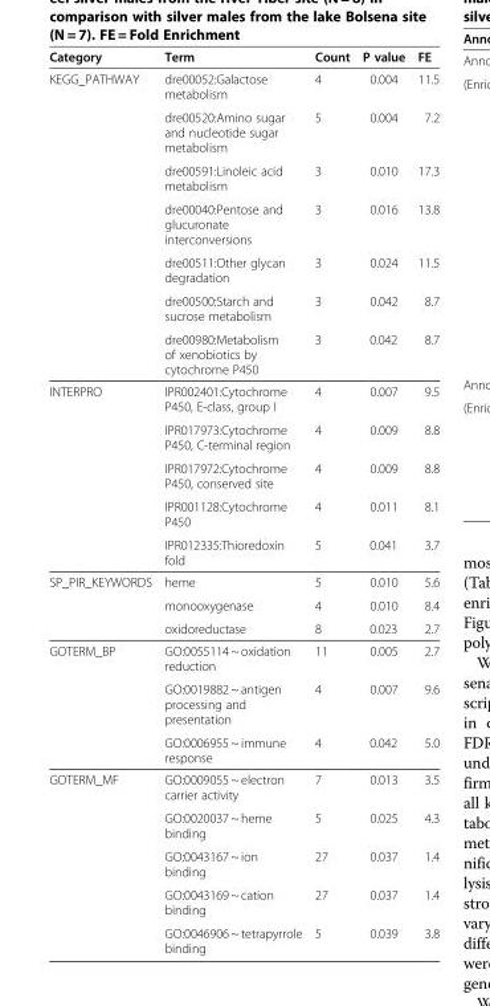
<table><thead><tr><td>Category</td><td>Term</td><td>Count</td><td>P value</td><td>FE</td></tr></thead><tbody><tr><td rowspan="7">KEGG_PATHWAY</td><td>dre00052:Galactose metabolism</td><td>4</td><td>0.004</td><td>11.5</td></tr><tr><td>dre00520:Amino sugar and nucleotide sugar metabolism</td><td>5</td><td>0.004</td><td>7.2</td></tr><tr><td>dre00591:Linoleic acid metabolism</td><td>3</td><td>0.010</td><td>17.3</td></tr><tr><td>dre00040:Pentose and glucuronate interconversions</td><td>3</td><td>0.016</td><td>13.8</td></tr><tr><td>dre00511:Other glycan degradation</td><td>3</td><td>0.024</td><td>11.5</td></tr><tr><td>dre00500:Starch and sucrose metabolism</td><td>3</td><td>0.042</td><td>8.7</td></tr><tr><td>dre00980:Metabolism of xenobiotics by cytochrome P450</td><td>3</td><td>0.042</td><td>8.7</td></tr><tr><td rowspan="5">INTERPRO</td><td>IPR002401:Cytochrome P450, E-class, group I</td><td>4</td><td>0.007</td><td>9.5</td></tr><tr><td>IPR017973:Cytochrome P450, C-terminal region</td><td>4</td><td>0.009</td><td>8.8</td></tr><tr><td>IPR017972:Cytochrome P450, conserved site</td><td>4</td><td>0.009</td><td>8.8</td></tr><tr><td>IPR001128:Cytochrome P450</td><td>4</td><td>0.011</td><td>8.1</td></tr><tr><td>IPR012335:Thioredoxin fold</td><td>5</td><td>0.041</td><td>3.7</td></tr><tr><td rowspan="3">SP_PIR_KEYWORDS</td><td>heme</td><td>5</td><td>0.010</td><td>5.6</td></tr><tr><td>monooxygenase</td><td>4</td><td>0.010</td><td>8.4</td></tr><tr><td>oxidoreductase</td><td>8</td><td>0.023</td><td>2.7</td></tr><tr><td rowspan="3">GOTERM_BP</td><td>GO:0055114 ~ oxidation reduction</td><td>11</td><td>0.005</td><td>2.7</td></tr><tr><td>GO:0019882 ~ antigen processing and presentation</td><td>4</td><td>0.007</td><td>9.6</td></tr><tr><td>GO:0006955 ~ immune response</td><td>4</td><td>0.042</td><td>5.0</td></tr><tr><td rowspan="5">GOTERM_MF</td><td>GO:0009055 ~ electron carrier activity</td><td>7</td><td>0.013</td><td>3.5</td></tr><tr><td>GO:0020037 ~ heme binding</td><td>5</td><td>0.025</td><td>4.3</td></tr><tr><td>GO:0043167 ~ ion binding</td><td>27</td><td>0.037</td><td>1.4</td></tr><tr><td>GO:0043169 ~ cation binding</td><td>27</td><td>0.037</td><td>1.4</td></tr><tr><td>GO:0046906 ~ tetrapyrrole binding</td><td>5</td><td>0.039</td><td>3.8</td></tr></tbody></table>